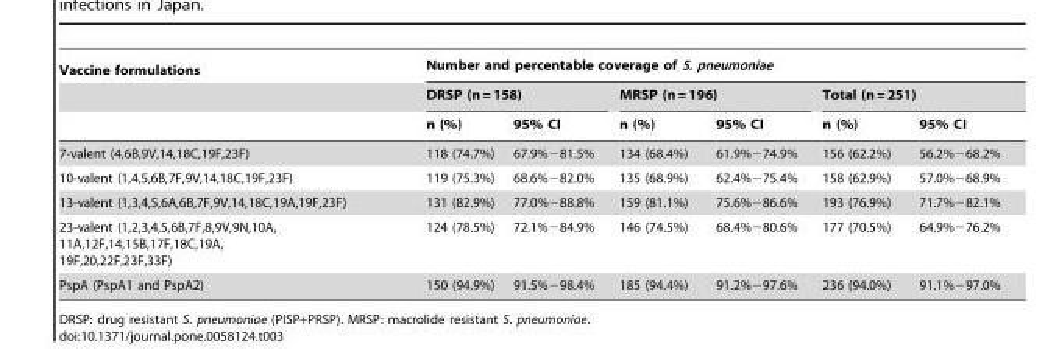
<table><thead><tr><td rowspan="3">Vaccine formulations</td><td colspan="6">Number and percentable coverage of S. pneumoniae</td></tr><tr><td colspan="2">DRSP (n = 158)</td><td colspan="2">MRSP (n = 196)</td><td colspan="2">Total (n = 251)</td></tr><tr><td>n (%)</td><td>95% CI</td><td>n (%)</td><td>95% CI</td><td>n (%)</td><td>95% CI</td></tr></thead><tbody><tr><td>7-valent (4,6B,9V,14,18C,19F,23F)</td><td>118 (74.7%)</td><td>67.9%−81.5%</td><td>134 (68.4%)</td><td>61.9%−74.9%</td><td>156 (62.2%)</td><td>56.2%−68.2%</td></tr><tr><td>10-valent (1,4,5,6B,7F,9V,14,18C,19F,23F)</td><td>119 (75.3%)</td><td>68.6%−82.0%</td><td>135 (68.9%)</td><td>62.4%−75.4%</td><td>158 (62.9%)</td><td>57.0%−68.9%</td></tr><tr><td>13-valent (1,3,4,5,6A,6B,7F,9V,14,18C,19A,19F,23F)</td><td>131 (82.9%)</td><td>77.0%−88.8%</td><td>159 (81.1%)</td><td>75.6%−86.6%</td><td>193 (76.9%)</td><td>71.7%−82.1%</td></tr><tr><td>23-valent (1,2,3,4,5,6B,7F,8,9V,9N,10A, 11A,12F,14,15B,17F,18C,19A, 19F,20,22F,23F,33F)</td><td>124 (78.5%)</td><td>72.1%−84.9%</td><td>146 (74.5%)</td><td>68.4%−80.6%</td><td>177 (70.5%)</td><td>64.9%−76.2%</td></tr><tr><td>PspA (PspA1 and PspA2)</td><td>150 (94.9%)</td><td>91.5%−98.4%</td><td>185 (94.4%)</td><td>91.2%−97.6%</td><td>236 (94.0%)</td><td>91.1%−97.0%</td></tr></tbody></table>